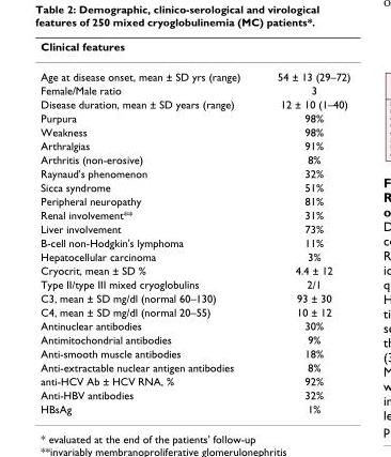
<table><thead><tr><td>Clinical features</td><td></td></tr></thead><tbody><tr><td>Age at disease onset, mean ± SD yrs (range)</td><td>54 ± 13 (29–72)</td></tr><tr><td>Female/Male ratio</td><td>3</td></tr><tr><td>Disease duration, mean ± SD years (range)</td><td>12 ± 10 (1–40)</td></tr><tr><td>Purpura</td><td>98%</td></tr><tr><td>Weakness</td><td>98%</td></tr><tr><td>Arthralgias</td><td>91%</td></tr><tr><td>Arthritis (non-erosive)</td><td>8%</td></tr><tr><td>Raynaud&#x27;s phenomenon</td><td>32%</td></tr><tr><td>Sicca syndrome</td><td>51%</td></tr><tr><td>Peripheral neuropathy</td><td>81%</td></tr><tr><td>Renal involvement**</td><td>31%</td></tr><tr><td>Liver involvement</td><td>73%</td></tr><tr><td>B-cell non-Hodgkin&#x27;s lymphoma</td><td>11%</td></tr><tr><td>Hepatocellular carcinoma</td><td>3%</td></tr><tr><td>Cryocrit, mean ± SD %</td><td>4.4 ± 12</td></tr><tr><td>Type II/type III mixed cryoglobulins</td><td>2/1</td></tr><tr><td>C3, mean ± SD mg/dl (normal 60–130)</td><td>93 ± 30</td></tr><tr><td>C4, mean ± SD mg/dl (normal 20–55)</td><td>10 ± 12</td></tr><tr><td>Antinuclear antibodies</td><td>30%</td></tr><tr><td>Antimitochondrial antibodies</td><td>9%</td></tr><tr><td>Anti-smooth muscle antibodies</td><td>18%</td></tr><tr><td>Anti-extractable nuclear antigen antibodies</td><td>8%</td></tr><tr><td>anti-HCV Ab ± HCV RNA, %</td><td>92%</td></tr><tr><td>Anti-HBV antibodies</td><td>32%</td></tr><tr><td>HBsAg</td><td>1%</td></tr></tbody></table>